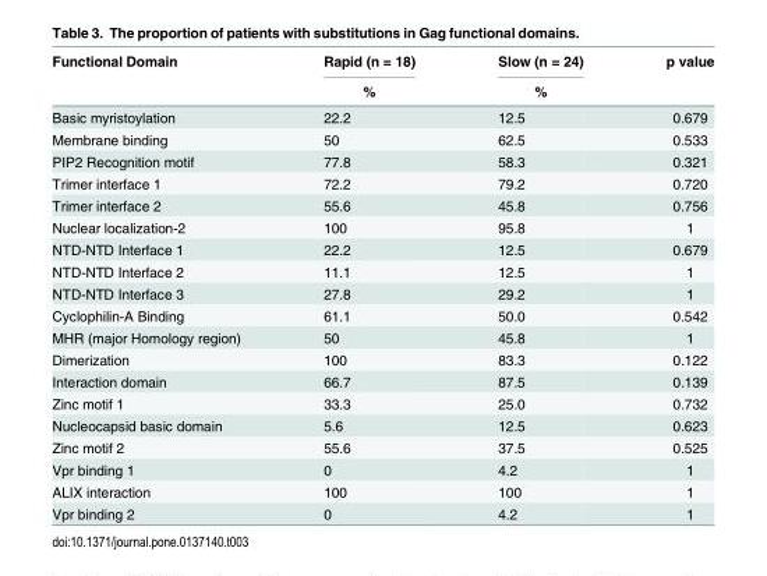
<table><thead><tr><td rowspan="2">Functional Domain</td><td rowspan="2">Rapid (n = 18) %</td><td rowspan="2">Slow (n = 24) %</td><td rowspan="2">p value</td></tr><tr></tr></thead><tbody><tr><td>Basic myristoylation</td><td>22.2</td><td>12.5</td><td>0.679</td></tr><tr><td>Membrane binding</td><td>50</td><td>62.5</td><td>0.533</td></tr><tr><td>PIP2 Recognition motif</td><td>77.8</td><td>58.3</td><td>0.321</td></tr><tr><td>Trimer interface 1</td><td>72.2</td><td>79.2</td><td>0.720</td></tr><tr><td>Trimer interface 2</td><td>55.6</td><td>45.8</td><td>0.756</td></tr><tr><td>Nuclear localization-2</td><td>100</td><td>95.8</td><td>1</td></tr><tr><td>NTD-NTD Interface 1</td><td>22.2</td><td>12.5</td><td>0.679</td></tr><tr><td>NTD-NTD Interface 2</td><td>11.1</td><td>12.5</td><td>1</td></tr><tr><td>NTD-NTD Interface 3</td><td>27.8</td><td>29.2</td><td>1</td></tr><tr><td>Cyclophilin-A Binding</td><td>61.1</td><td>50.0</td><td>0.542</td></tr><tr><td>MHR (major Homology region)</td><td>50</td><td>45.8</td><td>1</td></tr><tr><td>Dimerization</td><td>100</td><td>83.3</td><td>0.122</td></tr><tr><td>Interaction domain</td><td>66.7</td><td>87.5</td><td>0.139</td></tr><tr><td>Zinc motif 1</td><td>33.3</td><td>25.0</td><td>0.732</td></tr><tr><td>Nucleocapsid basic domain</td><td>5.6</td><td>12.5</td><td>0.623</td></tr><tr><td>Zinc motif 2</td><td>55.6</td><td>37.5</td><td>0.525</td></tr><tr><td>Vpr binding 1</td><td>0</td><td>4.2</td><td>1</td></tr><tr><td>ALIX interaction</td><td>100</td><td>100</td><td>1</td></tr><tr><td>Vpr binding 2</td><td>0</td><td>4.2</td><td>1</td></tr></tbody></table>